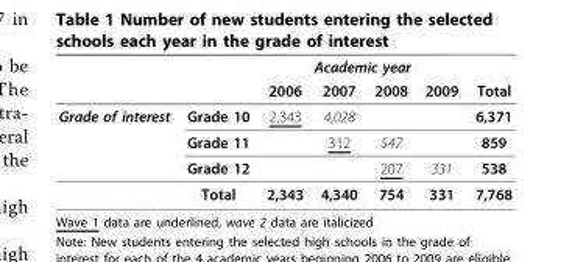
<table><thead><tr><td rowspan="2"></td><td rowspan="2"></td><td colspan="4">Academic year</td><td rowspan="2">Total</td></tr><tr><td>2006</td><td>2007</td><td>2008</td><td>2009</td></tr></thead><tbody><tr><td rowspan="4">Grade of interest</td><td>Grade 10</td><td>2,343</td><td>4,028</td><td></td><td></td><td>6,371</td></tr><tr><td>Grade 11</td><td></td><td>312</td><td>547</td><td></td><td>859</td></tr><tr><td>Grade 12</td><td></td><td></td><td>207</td><td>331</td><td>538</td></tr><tr><td>Total</td><td>2,343</td><td>4,340</td><td>754</td><td>331</td><td>7,768</td></tr></tbody></table>